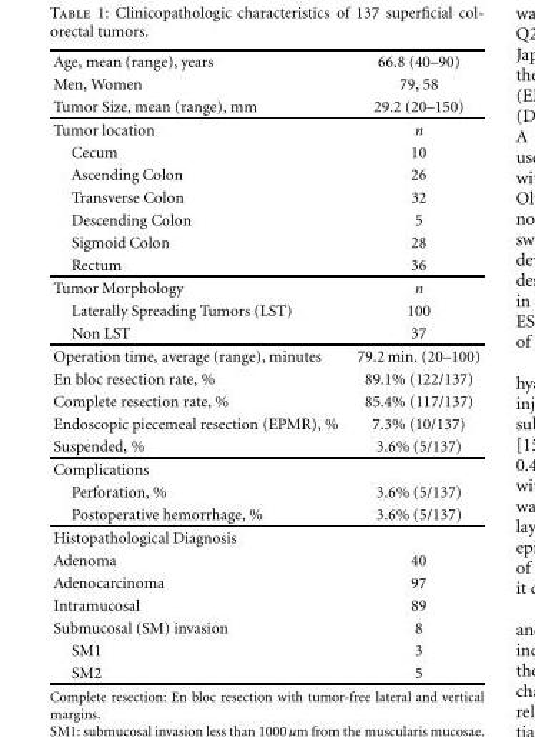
<table><thead><tr><td rowspan="3">Age, mean (range), years Men, Women Tumor Size, mean (range), mm</td><td rowspan="3">66.8 (40–90) 79, 58 29.2 (20–150)</td></tr><tr></tr><tr></tr></thead><tbody><tr><td>Tumor location</td><td>n</td></tr><tr><td>Cecum</td><td>10</td></tr><tr><td>Ascending Colon</td><td>26</td></tr><tr><td>Transverse Colon</td><td>32</td></tr><tr><td>Descending Colon</td><td>5</td></tr><tr><td>Sigmoid Colon</td><td>28</td></tr><tr><td>Rectum</td><td>36</td></tr><tr><td>Tumor Morphology</td><td>n</td></tr><tr><td>Laterally Spreading Tumors (LST)</td><td>100</td></tr><tr><td>Non LST</td><td>37</td></tr><tr><td>Operation time, average (range), minutes</td><td>79.2 min. (20–100)</td></tr><tr><td>En bloc resection rate, %</td><td>89.1% (122/137)</td></tr><tr><td>Complete resection rate, %</td><td>85.4% (117/137)</td></tr><tr><td>Endoscopic piecemeal resection (EPMR), %</td><td>7.3% (10/137)</td></tr><tr><td>Suspended, %</td><td>3.6% (5/137)</td></tr><tr><td colspan="2">Complications</td></tr><tr><td>Perforation, %</td><td>3.6% (5/137)</td></tr><tr><td>Postoperative hemorrhage, %</td><td>3.6% (5/137)</td></tr><tr><td colspan="2">Histopathological Diagnosis</td></tr><tr><td>Adenoma</td><td>40</td></tr><tr><td>Adenocarcinoma</td><td>97</td></tr><tr><td>Intramucosal</td><td>89</td></tr><tr><td>Submucosal (SM) invasion</td><td>8</td></tr><tr><td>SM1</td><td>3</td></tr><tr><td>SM2</td><td>5</td></tr></tbody></table>